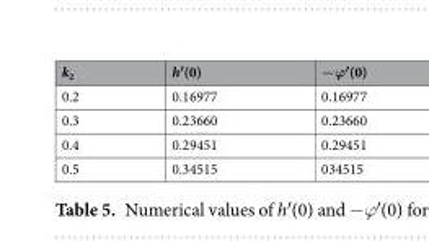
<table><thead><tr><td>k<sub>2</sub></td><td>h′(0)</td><td>−ϕ′(0)</td></tr></thead><tbody><tr><td>0.2</td><td>0.16977</td><td>0.16977</td></tr><tr><td>0.3</td><td>0.23660</td><td>0.23660</td></tr><tr><td>0.4</td><td>0.29451</td><td>0.29451</td></tr><tr><td>0.5</td><td>0.34515</td><td>034515</td></tr></tbody></table>